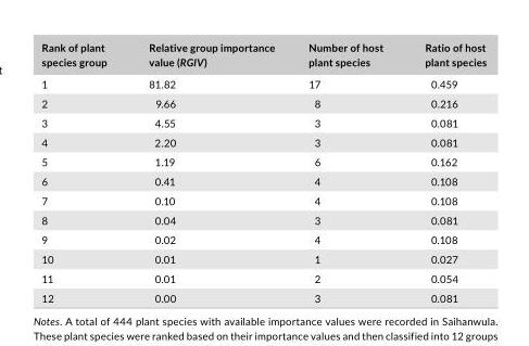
<table><thead><tr><td>Rank of plant species group</td><td>Relative group importance value (RGIV)</td><td>Number of host plant species</td><td>Ratio of host plant species</td></tr></thead><tbody><tr><td>1</td><td>81.82</td><td>17</td><td>0.459</td></tr><tr><td>2</td><td>9.66</td><td>8</td><td>0.216</td></tr><tr><td>3</td><td>4.55</td><td>3</td><td>0.081</td></tr><tr><td>4</td><td>2.20</td><td>3</td><td>0.081</td></tr><tr><td>5</td><td>1.19</td><td>6</td><td>0.162</td></tr><tr><td>6</td><td>0.41</td><td>4</td><td>0.108</td></tr><tr><td>7</td><td>0.10</td><td>4</td><td>0.108</td></tr><tr><td>8</td><td>0.04</td><td>3</td><td>0.081</td></tr><tr><td>9</td><td>0.02</td><td>4</td><td>0.108</td></tr><tr><td>10</td><td>0.01</td><td>1</td><td>0.027</td></tr><tr><td>11</td><td>0.01</td><td>2</td><td>0.054</td></tr><tr><td>12</td><td>0.00</td><td>3</td><td>0.081</td></tr></tbody></table>